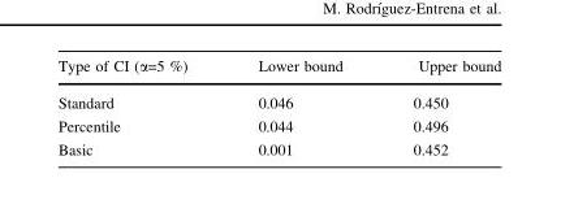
<table><thead><tr><td>Type of CI (α=5 %)</td><td>Lower bound</td><td>Upper bound</td></tr></thead><tbody><tr><td>Standard</td><td>0.046</td><td>0.450</td></tr><tr><td>Percentile</td><td>0.044</td><td>0.496</td></tr><tr><td>Basic</td><td>0.001</td><td>0.452</td></tr></tbody></table>